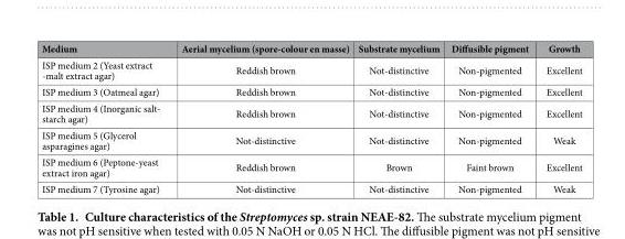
<table><thead><tr><td>Medium</td><td>Aerial mycelium (spore-colour en masse)</td><td>Substrate mycelium</td><td>Diffusible pigment</td><td>Growth</td></tr></thead><tbody><tr><td>ISP medium 2 (Yeast extract -malt extract agar)</td><td>Reddish brown</td><td>Not-distinctive</td><td>Non-pigmented</td><td>Excellent</td></tr><tr><td>ISP medium 3 (Oatmeal agar)</td><td>Reddish brown</td><td>Not-distinctive</td><td>Non-pigmented</td><td>Excellent</td></tr><tr><td>ISP medium 4 (Inorganic salt- starch agar)</td><td>Reddish brown</td><td>Not-distinctive</td><td>Non-pigmented</td><td>Excellent</td></tr><tr><td>ISP medium 5 (Glycerol asparagines agar)</td><td>Not-distinctive</td><td>Not-distinctive</td><td>Non-pigmented</td><td>Weak</td></tr><tr><td>ISP medium 6 (Peptone-yeast extract iron agar)</td><td>Reddish brown</td><td>Brown</td><td>Faint brown</td><td>Excellent</td></tr><tr><td>ISP medium 7 (Tyrosine agar)</td><td>Not-distinctive</td><td>Not-distinctive</td><td>Non-pigmented</td><td>Weak</td></tr></tbody></table>